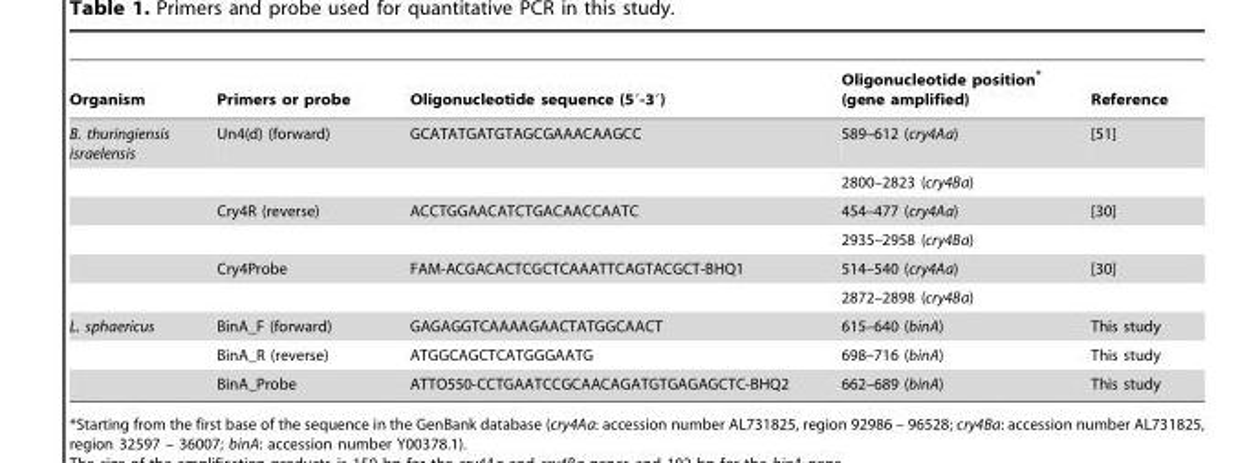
<table><thead><tr><td>Organism</td><td>Primers or probe</td><td>Oligonucleotide sequence (5′-3′)</td><td>Oligonucleotide position* (gene amplified)</td><td>Reference</td></tr></thead><tbody><tr><td rowspan="6">B. thuringiensis israelensis</td><td>Un4(d) (forward)</td><td>GCATATGATGTAGCGAAACAAGCC</td><td>589–612 (cry4Aa)</td><td>[51]</td></tr><tr><td></td><td></td><td>2800–2823 (cry4Ba)</td><td></td></tr><tr><td>Cry4R (reverse)</td><td>ACCTGGAACATCTGACAACCAATC</td><td>454–477 (cry4Aa)</td><td>[30]</td></tr><tr><td></td><td></td><td>2935–2958 (cry4Ba)</td><td></td></tr><tr><td>Cry4Probe</td><td>FAM-ACGACACTCGCTCAAATTCAGTACGCT-BHQ1</td><td>514–540 (cry4Aa)</td><td>[30]</td></tr><tr><td></td><td></td><td>2872–2898 (cry4Ba)</td><td></td></tr><tr><td rowspan="3">L. sphaericus</td><td>BinA_F (forward)</td><td>GAGAGGTCAAAAGAACTATGGCAACT</td><td>615–640 (binA)</td><td>This study</td></tr><tr><td>BinA_R (reverse)</td><td>ATGGCAGCTCATGGGAATG</td><td>698–716 (binA)</td><td>This study</td></tr><tr><td>BinA_Probe</td><td>ATTO550-CCTGAATCCGCAACAGATGTGAGAGCTC-BHQ2</td><td>662–689 (binA)</td><td>This study</td></tr></tbody></table>